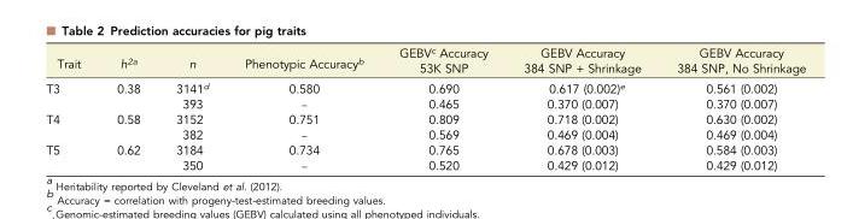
<table><thead><tr><td>Trait</td><td>h<sup>2a</sup></td><td>n</td><td>Phenotypic Accuracy<sup>b</sup></td><td>GEBV<sup>c</sup> Accuracy 53K SNP</td><td>GEBV Accuracy 384 SNP + Shrinkage</td><td>GEBV Accuracy 384 SNP, No Shrinkage</td></tr></thead><tbody><tr><td rowspan="2">T3</td><td rowspan="2">0.38</td><td>3141<sup>d</sup></td><td>0.580</td><td>0.690</td><td>0.617 (0.002)<sup>e</sup></td><td>0.561 (0.002)</td></tr><tr><td>393</td><td>–</td><td>0.465</td><td>0.370 (0.007)</td><td>0.370 (0.007)</td></tr><tr><td rowspan="2">T4</td><td rowspan="2">0.58</td><td>3152</td><td>0.751</td><td>0.809</td><td>0.718 (0.002)</td><td>0.630 (0.002)</td></tr><tr><td>382</td><td>–</td><td>0.569</td><td>0.469 (0.004)</td><td>0.469 (0.004)</td></tr><tr><td rowspan="2">T5</td><td rowspan="2">0.62</td><td>3184</td><td>0.734</td><td>0.765</td><td>0.678 (0.003)</td><td>0.584 (0.003)</td></tr><tr><td>350</td><td>–</td><td>0.520</td><td>0.429 (0.012)</td><td>0.429 (0.012)</td></tr></tbody></table>